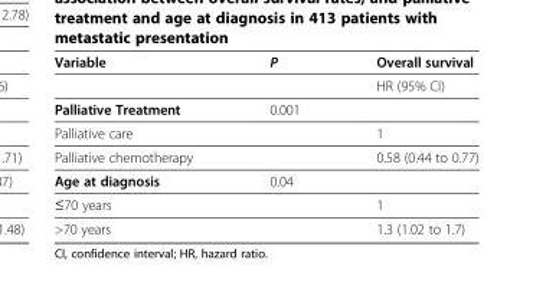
<table><thead><tr><td>Variable</td><td>P</td><td>Overall survival</td></tr></thead><tbody><tr><td></td><td></td><td>HR (95% CI)</td></tr><tr><td>Palliative Treatment</td><td>0.001</td><td></td></tr><tr><td>Palliative care</td><td></td><td>1</td></tr><tr><td>Palliative chemotherapy</td><td></td><td>0.58 (0.44 to 0.77)</td></tr><tr><td>Age at diagnosis</td><td>0.04</td><td></td></tr><tr><td>≤70 years</td><td></td><td>1</td></tr><tr><td>&gt;70 years</td><td></td><td>1.3 (1.02 to 1.7)</td></tr></tbody></table>